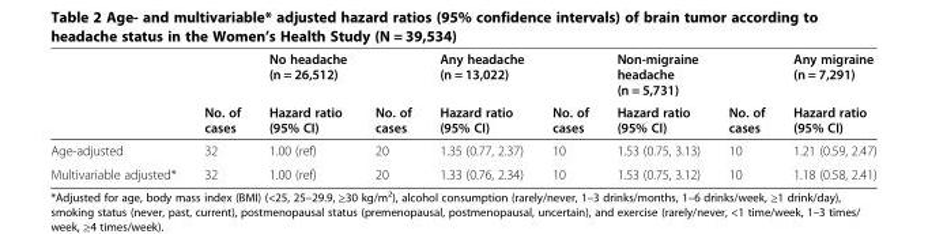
<table><thead><tr><td rowspan="2"></td><td rowspan="2">No. of cases</td><td rowspan="2">No headache (n = 26,512) Hazard ratio (95% CI)</td><td rowspan="2">No. of cases</td><td rowspan="2">Any headache (n = 13,022) Hazard ratio (95% CI)</td><td rowspan="2">No. of cases</td><td rowspan="2">Non-migraine headache (n = 5,731) Hazard ratio (95% CI)</td><td rowspan="2">No. of cases</td><td rowspan="2">Any migraine (n = 7,291) Hazard ratio (95% CI)</td></tr><tr></tr></thead><tbody><tr><td>Age-adjusted</td><td>32</td><td>1.00 (ref)</td><td>20</td><td>1.35 (0.77, 2.37)</td><td>10</td><td>1.53 (0.75, 3.13)</td><td>10</td><td>1.21 (0.59, 2.47)</td></tr><tr><td>Multivariable adjusted*</td><td>32</td><td>1.00 (ref)</td><td>20</td><td>1.33 (0.76, 2.34)</td><td>10</td><td>1.53 (0.75, 3.12)</td><td>10</td><td>1.18 (0.58, 2.41)</td></tr></tbody></table>